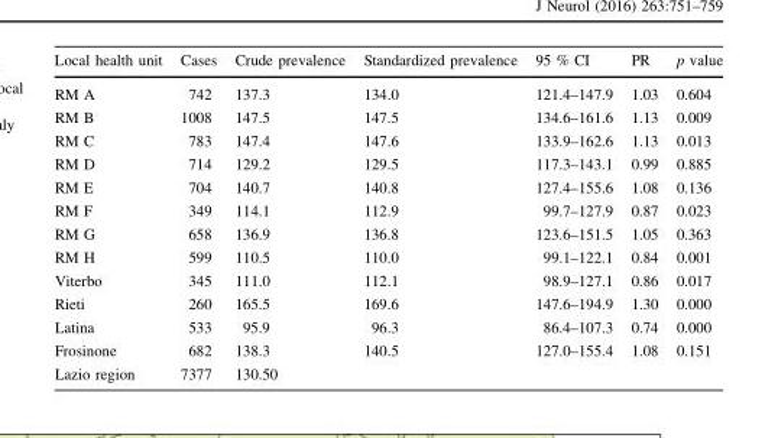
<table><thead><tr><td>Local health unit</td><td>Cases</td><td>Crude prevalence</td><td>Standardized prevalence</td><td>95 % CI</td><td>PR</td><td>p value</td></tr></thead><tbody><tr><td>RM A</td><td>742</td><td>137.3</td><td>134.0</td><td>121.4–147.9</td><td>1.03</td><td>0.604</td></tr><tr><td>RM B</td><td>1008</td><td>147.5</td><td>147.5</td><td>134.6–161.6</td><td>1.13</td><td>0.009</td></tr><tr><td>RM C</td><td>783</td><td>147.4</td><td>147.6</td><td>133.9–162.6</td><td>1.13</td><td>0.013</td></tr><tr><td>RM D</td><td>714</td><td>129.2</td><td>129.5</td><td>117.3–143.1</td><td>0.99</td><td>0.885</td></tr><tr><td>RM E</td><td>704</td><td>140.7</td><td>140.8</td><td>127.4–155.6</td><td>1.08</td><td>0.136</td></tr><tr><td>RM F</td><td>349</td><td>114.1</td><td>112.9</td><td>99.7–127.9</td><td>0.87</td><td>0.023</td></tr><tr><td>RM G</td><td>658</td><td>136.9</td><td>136.8</td><td>123.6–151.5</td><td>1.05</td><td>0.363</td></tr><tr><td>RM H</td><td>599</td><td>110.5</td><td>110.0</td><td>99.1–122.1</td><td>0.84</td><td>0.001</td></tr><tr><td>Viterbo</td><td>345</td><td>111.0</td><td>112.1</td><td>98.9–127.1</td><td>0.86</td><td>0.017</td></tr><tr><td>Rieti</td><td>260</td><td>165.5</td><td>169.6</td><td>147.6–194.9</td><td>1.30</td><td>0.000</td></tr><tr><td>Latina</td><td>533</td><td>95.9</td><td>96.3</td><td>86.4–107.3</td><td>0.74</td><td>0.000</td></tr><tr><td>Frosinone</td><td>682</td><td>138.3</td><td>140.5</td><td>127.0–155.4</td><td>1.08</td><td>0.151</td></tr><tr><td>Lazio region</td><td>7377</td><td>130.50</td><td></td><td></td><td></td><td></td></tr></tbody></table>